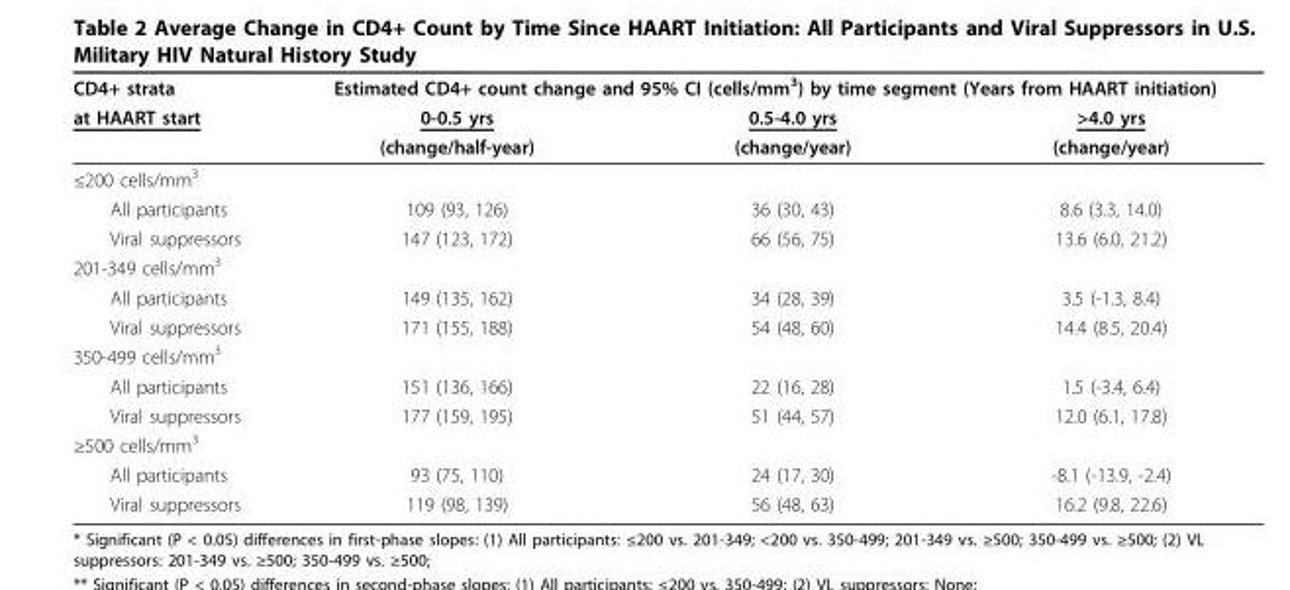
<table><thead><tr><td rowspan="3">CD4+ strata at HAART start</td><td colspan="3">Estimated CD4+ count change and 95% CI (cells/mm<sup>3</sup>) by time segment (Years from HAART initiation)</td></tr><tr><td rowspan="2">0-0.5 yrs (change/half-year)</td><td rowspan="2">0.5-4.0 yrs (change/year)</td><td rowspan="2">&gt;4.0 yrs (change/year)</td></tr><tr></tr></thead><tbody><tr><td colspan="4">≤200 cells/mm<sup>3</sup></td></tr><tr><td>All participants</td><td>109 (93, 126)</td><td>36 (30, 43)</td><td>8.6 (3.3, 14.0)</td></tr><tr><td>Viral suppressors</td><td>147 (123, 172)</td><td>66 (56, 75)</td><td>13.6 (6.0, 21.2)</td></tr><tr><td colspan="4">201-349 cells/mm<sup>3</sup></td></tr><tr><td>All participants</td><td>149 (135, 162)</td><td>34 (28, 39)</td><td>3.5 (-1.3, 8.4)</td></tr><tr><td>Viral suppressors</td><td>171 (155, 188)</td><td>54 (48, 60)</td><td>14.4 (8.5, 20.4)</td></tr><tr><td colspan="4">350-499 cells/mm<sup>3</sup></td></tr><tr><td>All participants</td><td>151 (136, 166)</td><td>22 (16, 28)</td><td>1.5 (-3.4, 6.4)</td></tr><tr><td>Viral suppressors</td><td>177 (159, 195)</td><td>51 (44, 57)</td><td>12.0 (6.1, 17.8)</td></tr><tr><td colspan="4">≥500 cells/mm<sup>3</sup></td></tr><tr><td>All participants</td><td>93 (75, 110)</td><td>24 (17, 30)</td><td>-8.1 (-13.9, -2.4)</td></tr><tr><td>Viral suppressors</td><td>119 (98, 139)</td><td>56 (48, 63)</td><td>16.2 (9.8, 22.6)</td></tr></tbody></table>